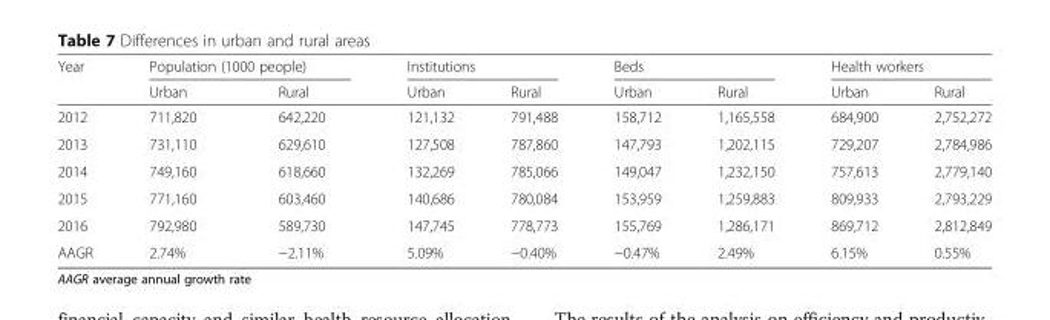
<table><thead><tr><td rowspan="2">Year</td><td colspan="2">Population (1000 people)</td><td colspan="2">Institutions</td><td colspan="2">Beds</td><td colspan="2">Health workers</td></tr><tr><td>Urban</td><td>Rural</td><td>Urban</td><td>Rural</td><td>Urban</td><td>Rural</td><td>Urban</td><td>Rural</td></tr></thead><tbody><tr><td>2012</td><td>711,820</td><td>642,220</td><td>121,132</td><td>791,488</td><td>158,712</td><td>1,165,558</td><td>684,900</td><td>2,752,272</td></tr><tr><td>2013</td><td>731,110</td><td>629,610</td><td>127,508</td><td>787,860</td><td>147,793</td><td>1,202,115</td><td>729,207</td><td>2,784,986</td></tr><tr><td>2014</td><td>749,160</td><td>618,660</td><td>132,269</td><td>785,066</td><td>149,047</td><td>1,232,150</td><td>757,613</td><td>2,779,140</td></tr><tr><td>2015</td><td>771,160</td><td>603,460</td><td>140,686</td><td>780,084</td><td>153,959</td><td>1,259,883</td><td>809,933</td><td>2,793,229</td></tr><tr><td>2016</td><td>792,980</td><td>589,730</td><td>147,745</td><td>778,773</td><td>155,769</td><td>1,286,171</td><td>869,712</td><td>2,812,849</td></tr><tr><td>AAGR</td><td>2.74%</td><td>−2.11%</td><td>5.09%</td><td>−0.40%</td><td>−0.47%</td><td>2.49%</td><td>6.15%</td><td>0.55%</td></tr></tbody></table>